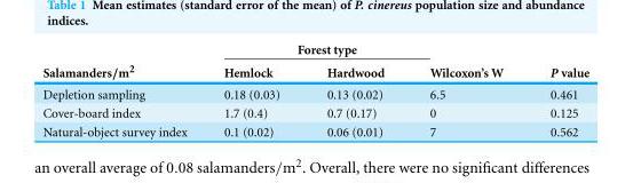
<table><thead><tr><td rowspan="2">Salamanders/m<sup>2</sup></td><td colspan="2">Forest type</td><td rowspan="2">Wilcoxon’s W</td><td rowspan="2">P value</td></tr><tr><td>Hemlock</td><td>Hardwood</td></tr></thead><tbody><tr><td>Depletion sampling</td><td>0.18 (0.03)</td><td>0.13 (0.02)</td><td>6.5</td><td>0.461</td></tr><tr><td>Cover-board index</td><td>1.7 (0.4)</td><td>0.7 (0.17)</td><td>0</td><td>0.125</td></tr><tr><td>Natural-object survey index</td><td>0.1 (0.02)</td><td>0.06 (0.01)</td><td>7</td><td>0.562</td></tr></tbody></table>